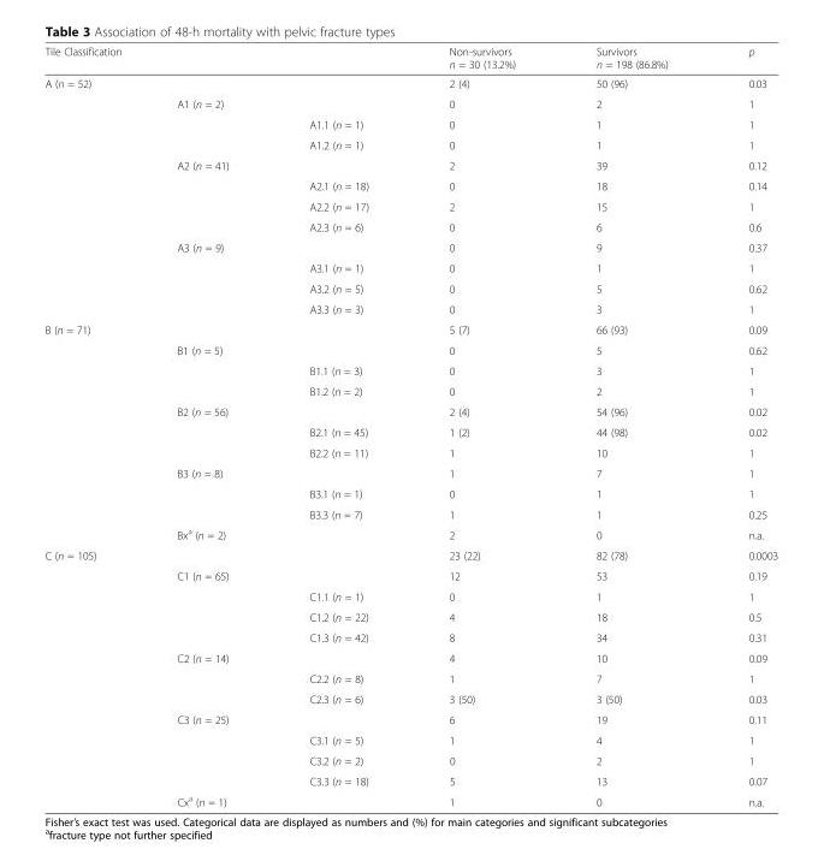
<table><thead><tr><td colspan="3">Tile Classification</td><td rowspan="2">Non-survivors n = 30 (13.2%) 2 (4)</td><td rowspan="2">Survivors n = 198 (86.8%) 50 (96)</td><td rowspan="2">p 0.03</td></tr><tr><td>A (n = 52)</td><td></td><td></td></tr></thead><tbody><tr><td></td><td>A1 (n = 2)</td><td></td><td>0</td><td>2</td><td>1</td></tr><tr><td></td><td></td><td>A1.1 (n = 1)</td><td>0</td><td>1</td><td>1</td></tr><tr><td></td><td></td><td>A1.2 (n = 1)</td><td>0</td><td>1</td><td>1</td></tr><tr><td></td><td>A2 (n = 41)</td><td></td><td>2</td><td>39</td><td>0.12</td></tr><tr><td></td><td></td><td>A2.1 (n = 18)</td><td>0</td><td>18</td><td>0.14</td></tr><tr><td></td><td></td><td>A2.2 (n = 17)</td><td>2</td><td>15</td><td>1</td></tr><tr><td></td><td></td><td>A2.3 (n = 6)</td><td>0</td><td>6</td><td>0.6</td></tr><tr><td></td><td>A3 (n = 9)</td><td></td><td>0</td><td>9</td><td>0.37</td></tr><tr><td></td><td></td><td>A3.1 (n = 1)</td><td>0</td><td>1</td><td>1</td></tr><tr><td></td><td></td><td>A3.2 (n = 5)</td><td>0</td><td>5</td><td>0.62</td></tr><tr><td></td><td></td><td>A3.3 (n = 3)</td><td>0</td><td>3</td><td>1</td></tr><tr><td rowspan="11">B (n = 71)</td><td></td><td></td><td>5 (7)</td><td>66 (93)</td><td>0.09</td></tr><tr><td>B1 (n = 5)</td><td></td><td>0</td><td>5</td><td>0.62</td></tr><tr><td></td><td>B1.1 (n = 3)</td><td>0</td><td>3</td><td>1</td></tr><tr><td></td><td>B1.2 (n = 2)</td><td>0</td><td>2</td><td>1</td></tr><tr><td>B2 (n = 56)</td><td></td><td>2 (4)</td><td>54 (96)</td><td>0.02</td></tr><tr><td></td><td>B2.1 (n = 45)</td><td>1 (2)</td><td>44 (98)</td><td>0.02</td></tr><tr><td></td><td>B2.2 (n = 11)</td><td>1</td><td>10</td><td>1</td></tr><tr><td>B3 (n = 8)</td><td></td><td>1</td><td>7</td><td>1</td></tr><tr><td></td><td>B3.1 (n = 1)</td><td>0</td><td>1</td><td>1</td></tr><tr><td></td><td>B3.3 (n = 7)</td><td>1</td><td>1</td><td>0.25</td></tr><tr><td>Bx<sup>a</sup> (n = 2)</td><td></td><td>2</td><td>0</td><td>n.a.</td></tr><tr><td rowspan="13">C (n = 105)</td><td></td><td></td><td>23 (22)</td><td>82 (78)</td><td>0.0003</td></tr><tr><td>C1 (n = 65)</td><td></td><td>12</td><td>53</td><td>0.19</td></tr><tr><td></td><td>C1.1 (n = 1)</td><td>0</td><td>1</td><td>1</td></tr><tr><td></td><td>C1.2 (n = 22)</td><td>4</td><td>18</td><td>0.5</td></tr><tr><td></td><td>C1.3 (n = 42)</td><td>8</td><td>34</td><td>0.31</td></tr><tr><td>C2 (n = 14)</td><td></td><td>4</td><td>10</td><td>0.09</td></tr><tr><td></td><td>C2.2 (n = 8)</td><td>1</td><td>7</td><td>1</td></tr><tr><td></td><td>C2.3 (n = 6)</td><td>3 (50)</td><td>3 (50)</td><td>0.03</td></tr><tr><td>C3 (n = 25)</td><td></td><td>6</td><td>19</td><td>0.11</td></tr><tr><td></td><td>C3.1 (n = 5)</td><td>1</td><td>4</td><td>1</td></tr><tr><td></td><td>C3.2 (n = 2)</td><td>0</td><td>2</td><td>1</td></tr><tr><td></td><td>C3.3 (n = 18)</td><td>5</td><td>13</td><td>0.07</td></tr><tr><td>Cx<sup>a</sup> (n = 1)</td><td></td><td>1</td><td>0</td><td>n.a.</td></tr></tbody></table>